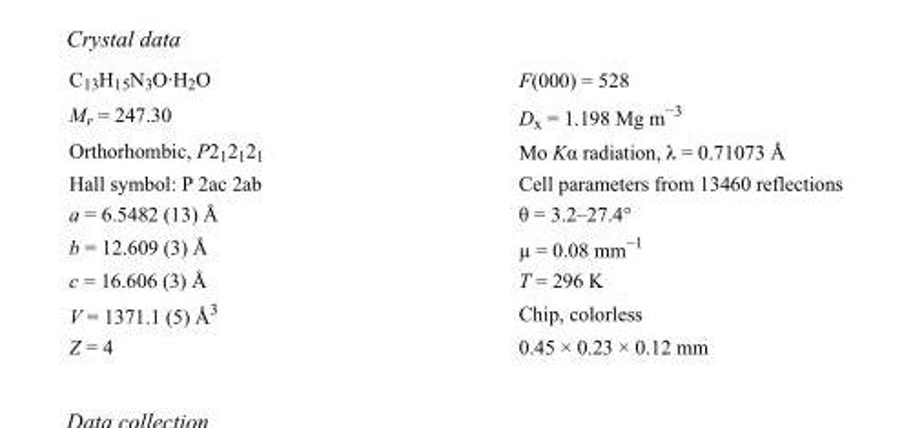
<table><tbody><tr><td>C<sub>13</sub>H<sub>15</sub>N<sub>3</sub>O·H<sub>2</sub>O</td><td>F(000) = 528</td></tr><tr><td>M<sub>r</sub> = 247.30</td><td>D<sub>x</sub> = 1.198 Mg m<sup>−3</sup></td></tr><tr><td>Orthorhombic, P2<sub>1</sub>2<sub>1</sub>2<sub>1</sub></td><td>Mo Kα radiation, λ = 0.71073 Å</td></tr><tr><td>Hall symbol: P 2ac 2ab</td><td>Cell parameters from 13460 reflections</td></tr><tr><td>a = 6.5482 (13) Å</td><td>θ = 3.2–27.4°</td></tr><tr><td>b = 12.609 (3) Å</td><td>µ = 0.08 mm<sup>−1</sup></td></tr><tr><td>c = 16.606 (3) Å</td><td>T = 296 K</td></tr><tr><td>V = 1371.1 (5) Å<sup>3</sup></td><td>Chip, colorless</td></tr><tr><td>Z = 4</td><td>0.45 × 0.23 × 0.12 mm</td></tr></tbody></table>